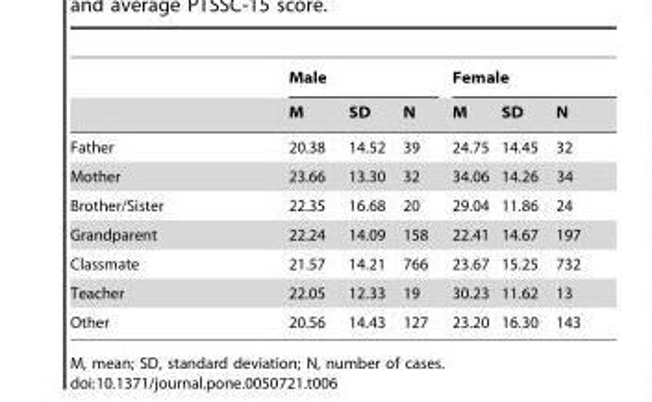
<table><thead><tr><td rowspan="2"></td><td colspan="3">Male</td><td colspan="3">Female</td></tr><tr><td>M</td><td>SD</td><td>N</td><td>M</td><td>SD</td><td>N</td></tr></thead><tbody><tr><td>Father</td><td>20.38</td><td>14.52</td><td>39</td><td>24.75</td><td>14.45</td><td>32</td></tr><tr><td>Mother</td><td>23.66</td><td>13.30</td><td>32</td><td>34.06</td><td>14.26</td><td>34</td></tr><tr><td>Brother/Sister</td><td>22.35</td><td>16.68</td><td>20</td><td>29.04</td><td>11.86</td><td>24</td></tr><tr><td>Grandparent</td><td>22.24</td><td>14.09</td><td>158</td><td>22.41</td><td>14.67</td><td>197</td></tr><tr><td>Classmate</td><td>21.57</td><td>14.21</td><td>766</td><td>23.67</td><td>15.25</td><td>732</td></tr><tr><td>Teacher</td><td>22.05</td><td>12.33</td><td>19</td><td>30.23</td><td>11.62</td><td>13</td></tr><tr><td>Other</td><td>20.56</td><td>14.43</td><td>127</td><td>23.20</td><td>16.30</td><td>143</td></tr></tbody></table>